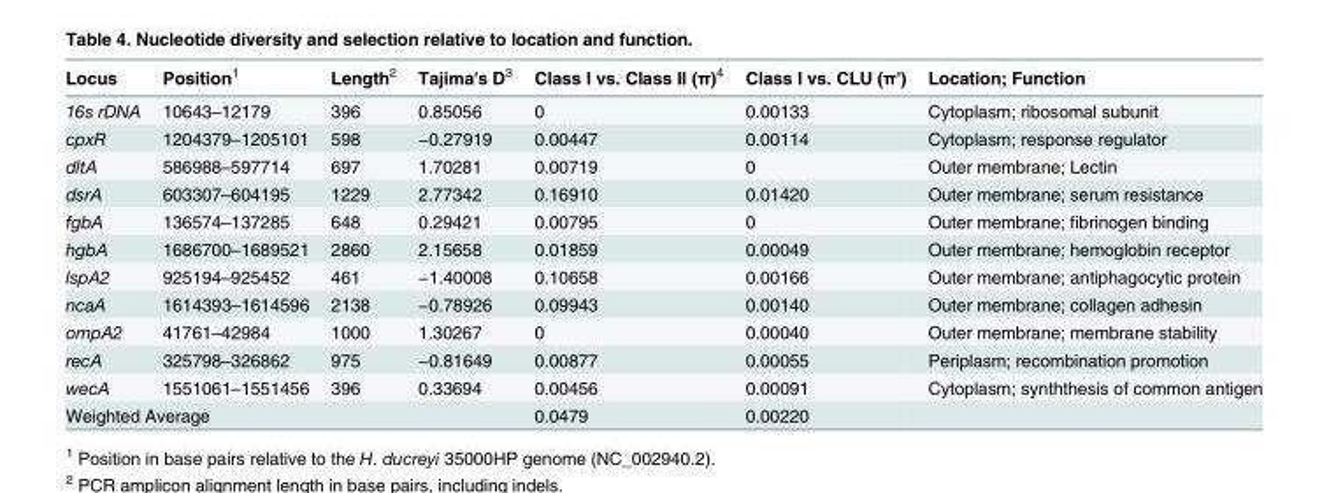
<table><thead><tr><td>Locus</td><td>Position<sup>1</sup></td><td>Length<sup>2</sup></td><td>Tajima&#x27;s D<sup>3</sup></td><td>Class I vs. Class II (π)<sup>4</sup></td><td>Class I vs. CLU (π&#x27;)</td><td>Location; Function</td></tr></thead><tbody><tr><td>16s rDNA</td><td>10643–12179</td><td>396</td><td>0.85056</td><td>0</td><td>0.00133</td><td>Cytoplasm; ribosomal subunit</td></tr><tr><td>cpxR</td><td>1204379–1205101</td><td>598</td><td>−0.27919</td><td>0.00447</td><td>0.00114</td><td>Cytoplasm; response regulator</td></tr><tr><td>dltA</td><td>586988–597714</td><td>697</td><td>1.70281</td><td>0.00719</td><td>0</td><td>Outer membrane; Lectin</td></tr><tr><td>dsrA</td><td>603307–604195</td><td>1229</td><td>2.77342</td><td>0.16910</td><td>0.01420</td><td>Outer membrane; serum resistance</td></tr><tr><td>fgbA</td><td>136574–137285</td><td>648</td><td>0.29421</td><td>0.00795</td><td>0</td><td>Outer membrane; fibrinogen binding</td></tr><tr><td>hgbA</td><td>1686700–1689521</td><td>2860</td><td>2.15658</td><td>0.01859</td><td>0.00049</td><td>Outer membrane; hemoglobin receptor</td></tr><tr><td>lspA2</td><td>925194–925452</td><td>461</td><td>−1.40008</td><td>0.10658</td><td>0.00166</td><td>Outer membrane; antiphagocytic protein</td></tr><tr><td>ncaA</td><td>1614393–1614596</td><td>2138</td><td>−0.78926</td><td>0.09943</td><td>0.00140</td><td>Outer membrane; collagen adhesin</td></tr><tr><td>ompA2</td><td>41761–42984</td><td>1000</td><td>1.30267</td><td>0</td><td>0.00040</td><td>Outer membrane; membrane stability</td></tr><tr><td>recA</td><td>325798–326862</td><td>975</td><td>−0.81649</td><td>0.00877</td><td>0.00055</td><td>Periplasm; recombination promotion</td></tr><tr><td>wecA</td><td>1551061–1551456</td><td>396</td><td>0.33694</td><td>0.00456</td><td>0.00091</td><td>Cytoplasm; synththesis of common antigen</td></tr><tr><td colspan="4">Weighted Average</td><td>0.0479</td><td>0.00220</td><td></td></tr></tbody></table>